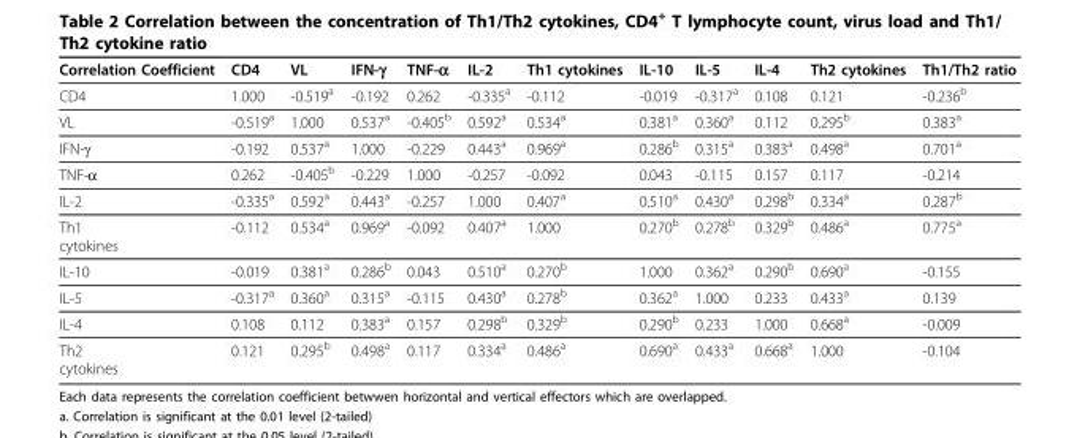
<table><thead><tr><td>Correlation Coefficient</td><td>CD4</td><td>VL</td><td>IFN-γ</td><td>TNF-α</td><td>IL-2</td><td>Th1 cytokines</td><td>IL-10</td><td>IL-5</td><td>IL-4</td><td>Th2 cytokines</td><td>Th1/Th2 ratio</td></tr></thead><tbody><tr><td>CD4</td><td>1.000</td><td>-0.519<sup>a</sup></td><td>-0.192</td><td>0.262</td><td>-0.335<sup>a</sup></td><td>-0.112</td><td>-0.019</td><td>-0.317<sup>a</sup></td><td>0.108</td><td>0.121</td><td>-0.236<sup>b</sup></td></tr><tr><td>VL</td><td>-0.519<sup>a</sup></td><td>1.000</td><td>0.537<sup>a</sup></td><td>-0.405<sup>b</sup></td><td>0.592<sup>a</sup></td><td>0.534<sup>a</sup></td><td>0.381<sup>a</sup></td><td>0.360<sup>a</sup></td><td>0.112</td><td>0.295<sup>b</sup></td><td>0.383<sup>a</sup></td></tr><tr><td>IFN-γ</td><td>-0.192</td><td>0.537<sup>a</sup></td><td>1.000</td><td>-0.229</td><td>0.443<sup>a</sup></td><td>0.969<sup>a</sup></td><td>0.286<sup>b</sup></td><td>0.315<sup>a</sup></td><td>0.383<sup>a</sup></td><td>0.498<sup>a</sup></td><td>0.701<sup>a</sup></td></tr><tr><td>TNF-α</td><td>0.262</td><td>-0.405<sup>b</sup></td><td>-0.229</td><td>1.000</td><td>-0.257</td><td>-0.092</td><td>0.043</td><td>-0.115</td><td>0.157</td><td>0.117</td><td>-0.214</td></tr><tr><td>IL-2</td><td>-0.335<sup>a</sup></td><td>0.592<sup>a</sup></td><td>0.443<sup>a</sup></td><td>-0.257</td><td>1.000</td><td>0.407<sup>a</sup></td><td>0.510<sup>a</sup></td><td>0.430<sup>a</sup></td><td>0.298<sup>b</sup></td><td>0.334<sup>a</sup></td><td>0.287<sup>b</sup></td></tr><tr><td>Th1 cytokines</td><td>-0.112</td><td>0.534<sup>a</sup></td><td>0.969<sup>a</sup></td><td>-0.092</td><td>0.407<sup>a</sup></td><td>1.000</td><td>0.270<sup>b</sup></td><td>0.278<sup>b</sup></td><td>0.329<sup>b</sup></td><td>0.486<sup>a</sup></td><td>0.775<sup>a</sup></td></tr><tr><td>IL-10</td><td>-0.019</td><td>0.381<sup>a</sup></td><td>0.286<sup>b</sup></td><td>0.043</td><td>0.510<sup>a</sup></td><td>0.270<sup>b</sup></td><td>1.000</td><td>0.362<sup>a</sup></td><td>0.290<sup>b</sup></td><td>0.690<sup>a</sup></td><td>-0.155</td></tr><tr><td>IL-5</td><td>-0.317<sup>a</sup></td><td>0.360<sup>a</sup></td><td>0.315<sup>a</sup></td><td>-0.115</td><td>0.430<sup>a</sup></td><td>0.278<sup>b</sup></td><td>0.362<sup>a</sup></td><td>1.000</td><td>0.233</td><td>0.433<sup>a</sup></td><td>0.139</td></tr><tr><td>IL-4</td><td>0.108</td><td>0.112</td><td>0.383<sup>a</sup></td><td>0.157</td><td>0.298<sup>b</sup></td><td>0.329<sup>b</sup></td><td>0.290<sup>b</sup></td><td>0.233</td><td>1.000</td><td>0.668<sup>a</sup></td><td>-0.009</td></tr><tr><td>Th2 cytokines</td><td>0.121</td><td>0.295<sup>b</sup></td><td>0.498<sup>a</sup></td><td>0.117</td><td>0.334<sup>a</sup></td><td>0.486<sup>a</sup></td><td>0.690<sup>a</sup></td><td>0.433<sup>a</sup></td><td>0.668<sup>a</sup></td><td>1.000</td><td>-0.104</td></tr></tbody></table>